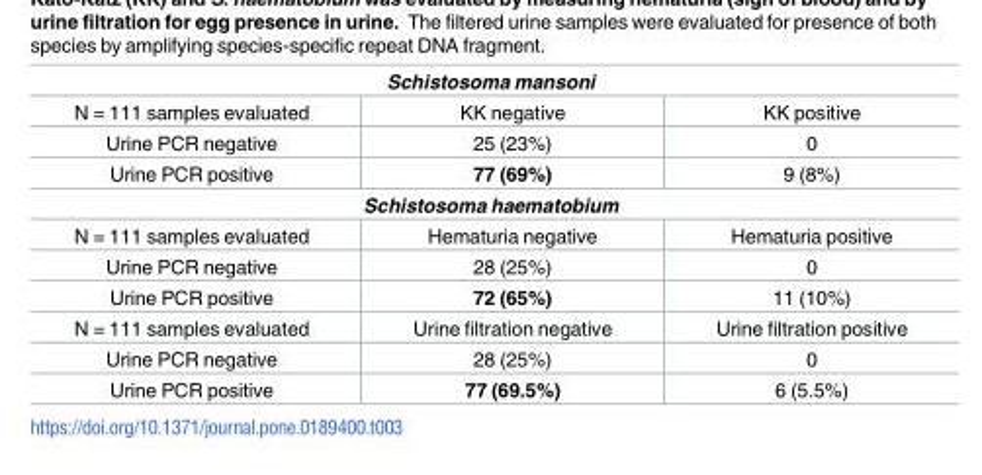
<table><tbody><tr><td colspan="3">Schistosoma mansoni</td></tr><tr><td>N = 111 samples evaluated</td><td>KK negative</td><td>KK positive</td></tr><tr><td>Urine PCR negative</td><td>25 (23%)</td><td>0</td></tr><tr><td>Urine PCR positive</td><td>77 (69%)</td><td>9 (8%)</td></tr><tr><td colspan="3">Schistosoma haematobium</td></tr><tr><td>N = 111 samples evaluated</td><td>Hematuria negative</td><td>Hematuria positive</td></tr><tr><td>Urine PCR negative</td><td>28 (25%)</td><td>0</td></tr><tr><td>Urine PCR positive</td><td>72 (65%)</td><td>11 (10%)</td></tr><tr><td>N = 111 samples evaluated</td><td>Urine filtration negative</td><td>Urine filtration positive</td></tr><tr><td>Urine PCR negative</td><td>28 (25%)</td><td>0</td></tr><tr><td>Urine PCR positive</td><td>77 (69.5%)</td><td>6 (5.5%)</td></tr></tbody></table>